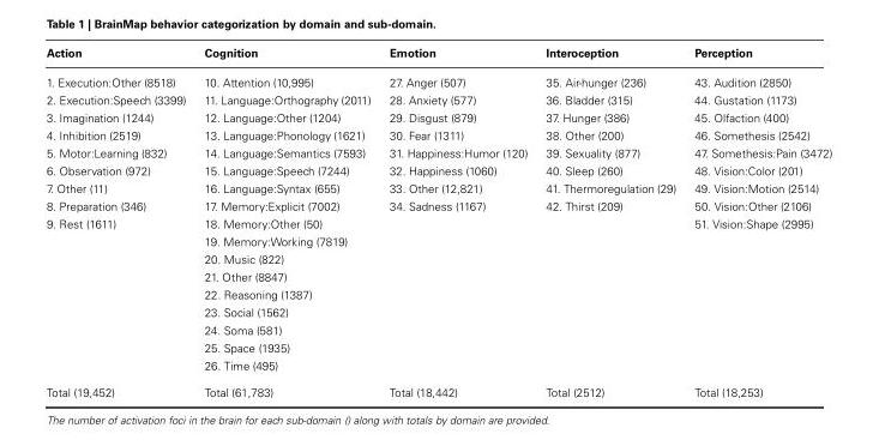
<table><thead><tr><td>Action</td><td>Cognition</td><td>Emotion</td><td>Interoception</td><td>Perception</td></tr></thead><tbody><tr><td>1. Execution:Other (8518)</td><td>10. Attention (10,995)</td><td>27. Anger (507)</td><td>35. Air-hunger (236)</td><td>43. Audition (2850)</td></tr><tr><td>2. Execution:Speech (3399)</td><td>11. Language:Orthography (2011)</td><td>28. Anxiety (577)</td><td>36. Bladder (315)</td><td>44. Gustation (1173)</td></tr><tr><td>3. Imagination (1244)</td><td>12. Language:Other (1204)</td><td>29. Disgust (879)</td><td>37. Hunger (386)</td><td>45. Olfaction (400)</td></tr><tr><td>4. Inhibition (2519)</td><td>13. Language:Phonology (1621)</td><td>30. Fear (1311)</td><td>38. Other (200)</td><td>46. Somethesis (2542)</td></tr><tr><td>5. Motor:Learning (832)</td><td>14. Language:Semantics (7593)</td><td>31. Happiness:Humor (120)</td><td>39. Sexuality (877)</td><td>47. Somethesis:Pain (3472)</td></tr><tr><td>6. Observation (972)</td><td>15. Language:Speech (7244)</td><td>32. Happiness (1060)</td><td>40. Sleep (260)</td><td>48. Vision:Color (201)</td></tr><tr><td>7. Other (11)</td><td>16. Language:Syntax (655)</td><td>33. Other (12,821)</td><td>41. Thermoregulation (29)</td><td>49. Vision:Motion (2514)</td></tr><tr><td>8. Preparation (346)</td><td>17. Memory:Explicit (7002)</td><td>34. Sadness (1167)</td><td>42. Thirst (209)</td><td>50. Vision:Other (2106)</td></tr><tr><td rowspan="9">9. Rest (1611)</td><td>18. Memory:Other (50)</td><td></td><td></td><td>51. Vision:Shape (2995)</td></tr><tr><td>19. Memory:Working (7819)</td><td></td><td></td><td></td></tr><tr><td>20. Music (822)</td><td></td><td></td><td></td></tr><tr><td>21. Other (8847)</td><td></td><td></td><td></td></tr><tr><td>22. Reasoning (1387)</td><td></td><td></td><td></td></tr><tr><td>23. Social (1562)</td><td></td><td></td><td></td></tr><tr><td>24. Soma (581)</td><td></td><td></td><td></td></tr><tr><td>25. Space (1935)</td><td></td><td></td><td></td></tr><tr><td>26. Time (495)</td><td></td><td></td><td></td></tr><tr><td>Total (19,452)</td><td>Total (61,783)</td><td>Total (18,442)</td><td>Total (2512)</td><td>Total (18,253)</td></tr></tbody></table>